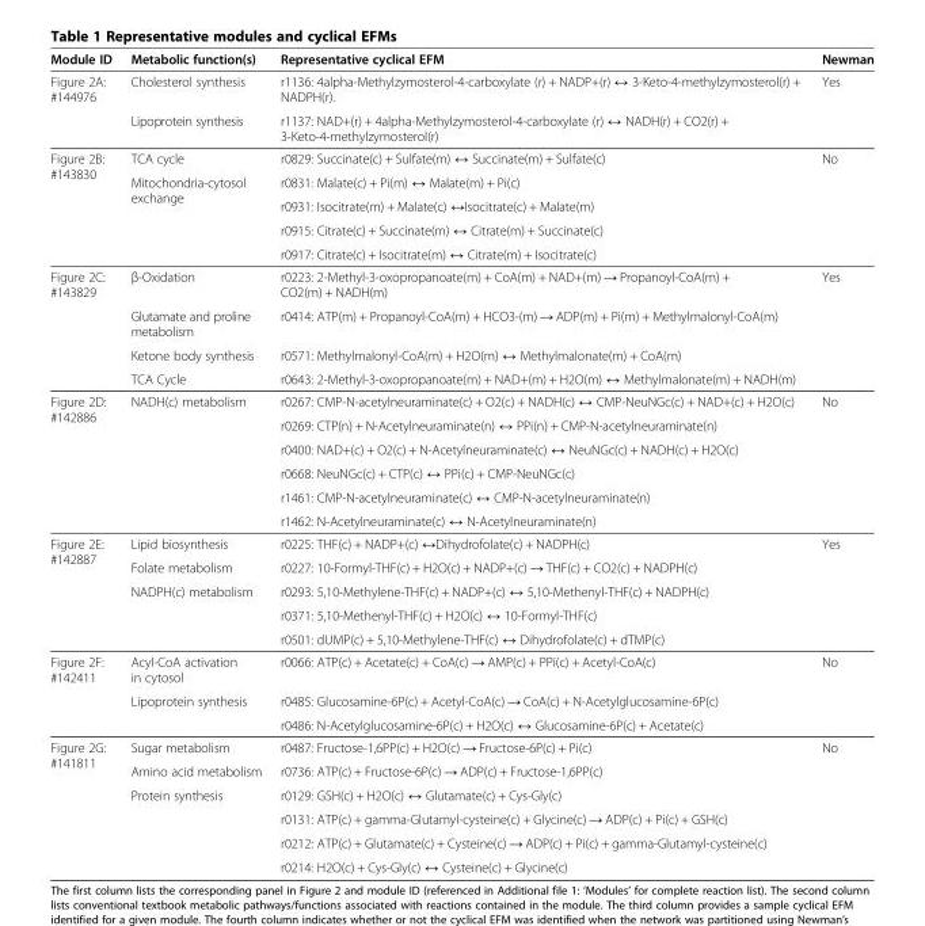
<table><thead><tr><td>Module ID</td><td>Metabolic function(s)</td><td>Representative cyclical EFM</td><td>Newman</td></tr></thead><tbody><tr><td rowspan="2">Figure 2A: #144976</td><td>Cholesterol synthesis</td><td>r1136: 4alpha-Methylzymosterol-4-carboxylate (r) + NADP+(r) ↔ 3-Keto-4-methylzymosterol(r) + NADPH(r).</td><td rowspan="2">Yes</td></tr><tr><td>Lipoprotein synthesis</td><td>r1137: NAD+(r) + 4alpha-Methylzymosterol-4-carboxylate (r) ↔ NADH(r) + CO2(r) + 3-Keto-4-methylzymosterol(r)</td></tr><tr><td rowspan="5">Figure 2B: #143830</td><td>TCA cycle</td><td>r0829: Succinate(c) + Sulfate(m) ↔ Succinate(m) + Sulfate(c)</td><td rowspan="5">No</td></tr><tr><td rowspan="4">Mitochondria-cytosol exchange</td><td>r0831: Malate(c) + Pi(m) ↔ Malate(m) + Pi(c)</td></tr><tr><td>r0931: Isocitrate(m) + Malate(c) ↔Isocitrate(c) + Malate(m)</td></tr><tr><td>r0915: Citrate(c) + Succinate(m) ↔ Citrate(m) + Succinate(c)</td></tr><tr><td>r0917: Citrate(c) + Isocitrate(m) ↔ Citrate(m) + Isocitrate(c)</td></tr><tr><td rowspan="4">Figure 2C: #143829</td><td>β-Oxidation</td><td>r0223: 2-Methyl-3-oxopropanoate(m) + CoA(m) + NAD+(m) → Propanoyl-CoA(m) + CO2(m) + NADH(m)</td><td rowspan="4">Yes</td></tr><tr><td>Glutamate and proline metabolism</td><td>r0414: ATP(m) + Propanoyl-CoA(m) + HCO3-(m) → ADP(m) + Pi(m) + Methylmalonyl-CoA(m)</td></tr><tr><td>Ketone body synthesis</td><td>r0571: Methylmalonyl-CoA(m) + H2O(m) ↔ Methylmalonate(m) + CoA(m)</td></tr><tr><td>TCA Cycle</td><td>r0643: 2-Methyl-3-oxopropanoate(m) + NAD+(m) + H2O(m) ↔ Methylmalonate(m) + NADH(m)</td></tr><tr><td rowspan="6">Figure 2D: #142886</td><td rowspan="6">NADH(c) metabolism</td><td>r0267: CMP-N-acetylneuraminate(c) + O2(c) + NADH(c) ↔ CMP-NeuNGc(c) + NAD+(c) + H2O(c)</td><td rowspan="6">No</td></tr><tr><td>r0269: CTP(n) + N-Acetylneuraminate(n) ↔ PPi(n) + CMP-N-acetylneuraminate(n)</td></tr><tr><td>r0400: NAD+(c) + O2(c) + N-Acetylneuraminate(c) ↔ NeuNGc(c) + NADH(c) + H2O(c)</td></tr><tr><td>r0668: NeuNGc(c) + CTP(c) ↔ PPi(c) + CMP-NeuNGc(c)</td></tr><tr><td>r1461: CMP-N-acetylneuraminate(c) ↔ CMP-N-acetylneuraminate(n)</td></tr><tr><td>r1462: N-Acetylneuraminate(c) ↔ N-Acetylneuraminate(n)</td></tr><tr><td rowspan="5">Figure 2E: #142887</td><td>Lipid biosynthesis</td><td>r0225: THF(c) + NADP+(c) ↔Dihydrofolate(c) + NADPH(c)</td><td rowspan="5">Yes</td></tr><tr><td>Folate metabolism</td><td>r0227: 10-Formyl-THF(c) + H2O(c) + NADP+(c) → THF(c) + CO2(c) + NADPH(c)</td></tr><tr><td rowspan="3">NADPH(c) metabolism</td><td>r0293: 5,10-Methylene-THF(c) + NADP+(c) ↔ 5,10-Methenyl-THF(c) + NADPH(c)</td></tr><tr><td>r0371: 5,10-Methenyl-THF(c) + H2O(c) ↔ 10-Formyl-THF(c)</td></tr><tr><td>r0501: dUMP(c) + 5,10-Methylene-THF(c) ↔ Dihydrofolate(c) + dTMP(c)</td></tr><tr><td rowspan="3">Figure 2F: #142411</td><td>Acyl-CoA activation in cytosol</td><td>r0066: ATP(c) + Acetate(c) + CoA(c) → AMP(c) + PPi(c) + Acetyl-CoA(c)</td><td rowspan="3">No</td></tr><tr><td rowspan="2">Lipoprotein synthesis</td><td>r0485: Glucosamine-6P(c) + Acetyl-CoA(c) → CoA(c) + N-Acetylglucosamine-6P(c)</td></tr><tr><td>r0486: N-Acetylglucosamine-6P(c) + H2O(c) ↔ Glucosamine-6P(c) + Acetate(c)</td></tr><tr><td rowspan="6">Figure 2G: #141811</td><td>Sugar metabolism</td><td>r0487: Fructose-1,6PP(c) + H2O(c) → Fructose-6P(c) + Pi(c)</td><td rowspan="6">No</td></tr><tr><td>Amino acid metabolism</td><td>r0736: ATP(c) + Fructose-6P(c) → ADP(c) + Fructose-1,6PP(c)</td></tr><tr><td rowspan="4">Protein synthesis</td><td>r0129: GSH(c) + H2O(c) ↔ Glutamate(c) + Cys-Gly(c)</td></tr><tr><td>r0131: ATP(c) + gamma-Glutamyl-cysteine(c) + Glycine(c) → ADP(c) + Pi(c) + GSH(c)</td></tr><tr><td>r0212: ATP(c) + Glutamate(c) + Cysteine(c) → ADP(c) + Pi(c) + gamma-Glutamyl-cysteine(c)</td></tr><tr><td>r0214: H2O(c) + Cys-Gly(c) ↔ Cysteine(c) + Glycine(c)</td></tr></tbody></table>